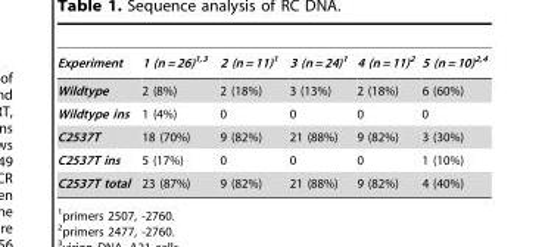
<table><thead><tr><td>Experiment</td><td>1 (n = 26)1,3</td><td>2 (n = 11)1</td><td>3 (n = 24)1</td><td>4 (n = 11)2</td><td>5 (n = 10)2,4</td></tr></thead><tbody><tr><td>Wildtype</td><td>2 (8%)</td><td>2 (18%)</td><td>3 (13%)</td><td>2 (18%)</td><td>6 (60%)</td></tr><tr><td>Wildtype ins</td><td>1 (4%)</td><td>0</td><td>0</td><td>0</td><td>0</td></tr><tr><td>C2537T</td><td>18 (70%)</td><td>9 (82%)</td><td>21 (88%)</td><td>9 (82%)</td><td>3 (30%)</td></tr><tr><td>C2537T ins</td><td>5 (17%)</td><td>0</td><td>0</td><td>0</td><td>1 (10%)</td></tr><tr><td>C2537T total</td><td>23 (87%)</td><td>9 (82%)</td><td>21 (88%)</td><td>9 (82%)</td><td>4 (40%)</td></tr></tbody></table>